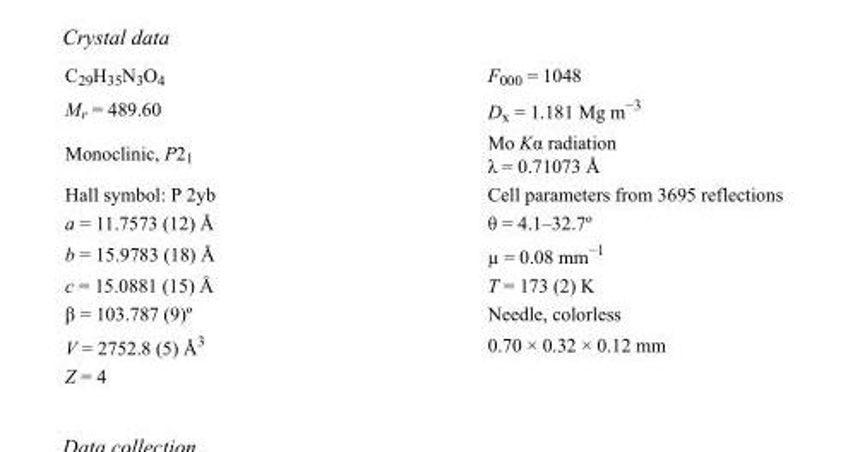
<table><tbody><tr><td>C<sub>29</sub>H<sub>35</sub>N<sub>3</sub>O<sub>4</sub></td><td>F<sub>000</sub> = 1048</td></tr><tr><td>M<sub>r</sub> = 489.60</td><td>D<sub>x</sub> = 1.181 Mg m<sup>−3</sup></td></tr><tr><td>Monoclinic, P2<sub>1</sub></td><td>Mo Kα radiation λ = 0.71073 Å</td></tr><tr><td>Hall symbol: P 2yb</td><td>Cell parameters from 3695 reflections</td></tr><tr><td>a = 11.7573 (12) Å</td><td>θ = 4.1–32.7º</td></tr><tr><td>b = 15.9783 (18) Å</td><td>µ = 0.08 mm<sup>−1</sup></td></tr><tr><td>c = 15.0881 (15) Å</td><td>T = 173 (2) K</td></tr><tr><td>β = 103.787 (9)º</td><td>Needle, colorless</td></tr><tr><td>V = 2752.8 (5) Å<sup>3</sup></td><td>0.70 × 0.32 × 0.12 mm</td></tr><tr><td>Z = 4</td><td></td></tr></tbody></table>